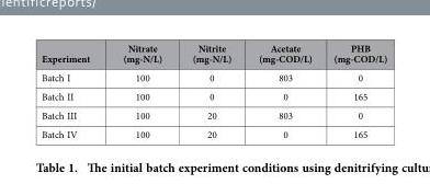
<table><thead><tr><td>Experiment</td><td>Nitrate (mg-N/L)</td><td>Nitrite (mg-N/L)</td><td>Acetate (mg-COD/L)</td><td>PHB (mg-COD/L)</td></tr></thead><tbody><tr><td>Batch I</td><td>100</td><td>0</td><td>803</td><td>0</td></tr><tr><td>Batch II</td><td>100</td><td>0</td><td>0</td><td>165</td></tr><tr><td>Batch III</td><td>100</td><td>20</td><td>803</td><td>0</td></tr><tr><td>Batch IV</td><td>100</td><td>20</td><td>0</td><td>165</td></tr></tbody></table>